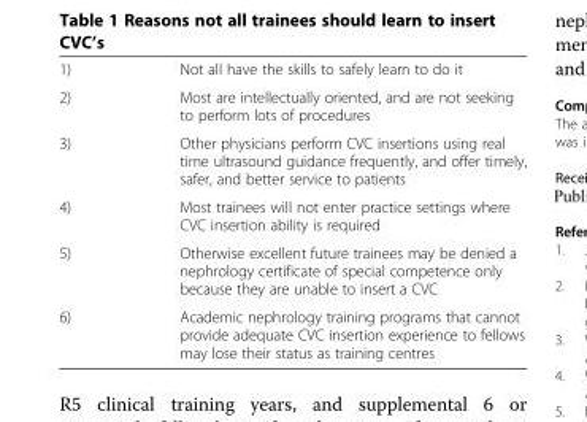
<table><tbody><tr><td>1)</td><td>Not all have the skills to safely learn to do it</td></tr><tr><td>2)</td><td>Most are intellectually oriented, and are not seeking to perform lots of procedures</td></tr><tr><td>3)</td><td>Other physicians perform CVC insertions using real time ultrasound guidance frequently, and offer timely, safer, and better service to patients</td></tr><tr><td>4)</td><td>Most trainees will not enter practice settings where CVC insertion ability is required</td></tr><tr><td>5)</td><td>Otherwise excellent future trainees may be denied a nephrology certificate of special competence only because they are unable to insert a CVC</td></tr><tr><td>6)</td><td>Academic nephrology training programs that cannot provide adequate CVC insertion experience to fellows may lose their status as training centres</td></tr></tbody></table>